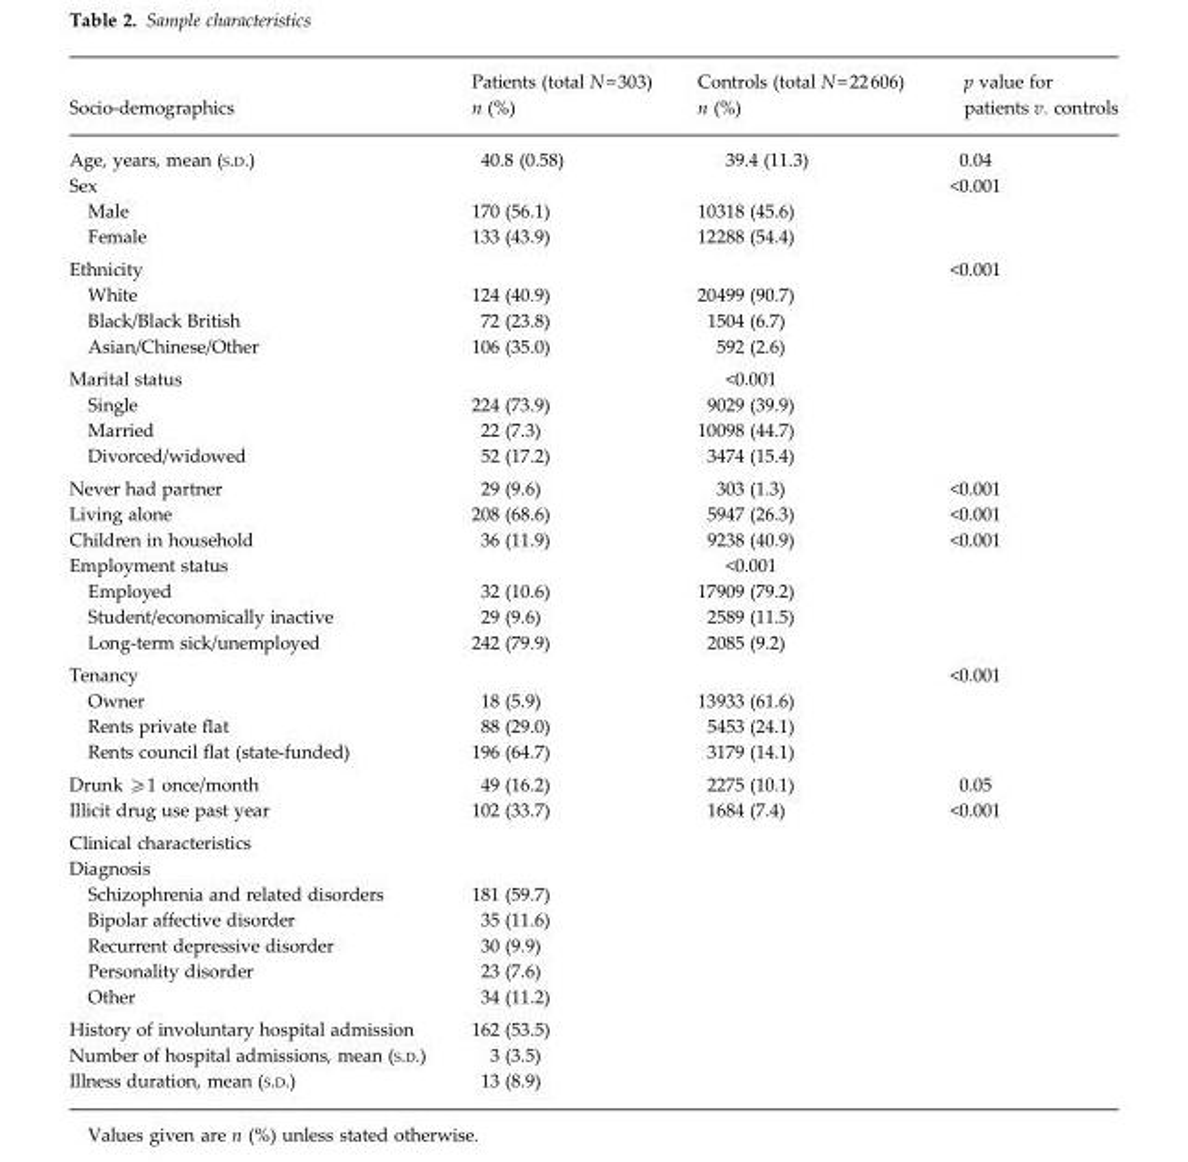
<table><thead><tr><td>Socio-demographics</td><td>Patients (total N=303) n (%)</td><td>Controls (total N=22606) n (%)</td><td>p value for patients v. controls</td></tr></thead><tbody><tr><td>Age, years, mean (S.D.)</td><td>40.8 (0.58)</td><td>39.4 (11.3)</td><td>0.04</td></tr><tr><td>Sex</td><td></td><td></td><td>&lt;0.001</td></tr><tr><td>Male</td><td>170 (56.1)</td><td>10318 (45.6)</td><td></td></tr><tr><td>Female</td><td>133 (43.9)</td><td>12288 (54.4)</td><td></td></tr><tr><td>Ethnicity</td><td></td><td></td><td>&lt;0.001</td></tr><tr><td>White</td><td>124 (40.9)</td><td>20499 (90.7)</td><td></td></tr><tr><td>Black/Black British</td><td>72 (23.8)</td><td>1504 (6.7)</td><td></td></tr><tr><td>Asian/Chinese/Other</td><td>106 (35.0)</td><td>592 (2.6)</td><td></td></tr><tr><td>Marital status</td><td></td><td>&lt;0.001</td><td></td></tr><tr><td>Single</td><td>224 (73.9)</td><td>9029 (39.9)</td><td></td></tr><tr><td>Married</td><td>22 (7.3)</td><td>10098 (44.7)</td><td></td></tr><tr><td>Divorced/widowed</td><td>52 (17.2)</td><td>3474 (15.4)</td><td></td></tr><tr><td>Never had partner</td><td>29 (9.6)</td><td>303 (1.3)</td><td>&lt;0.001</td></tr><tr><td>Living alone</td><td>208 (68.6)</td><td>5947 (26.3)</td><td>&lt;0.001</td></tr><tr><td>Children in household</td><td>36 (11.9)</td><td>9238 (40.9)</td><td>&lt;0.001</td></tr><tr><td>Employment status</td><td></td><td>&lt;0.001</td><td></td></tr><tr><td>Employed</td><td>32 (10.6)</td><td>17909 (79.2)</td><td></td></tr><tr><td>Student/economically inactive</td><td>29 (9.6)</td><td>2589 (11.5)</td><td></td></tr><tr><td>Long-term sick/unemployed</td><td>242 (79.9)</td><td>2085 (9.2)</td><td></td></tr><tr><td>Tenancy</td><td></td><td></td><td>&lt;0.001</td></tr><tr><td>Owner</td><td>18 (5.9)</td><td>13933 (61.6)</td><td></td></tr><tr><td>Rents private flat</td><td>88 (29.0)</td><td>5453 (24.1)</td><td></td></tr><tr><td>Rents council flat (state-funded)</td><td>196 (64.7)</td><td>3179 (14.1)</td><td></td></tr><tr><td>Drunk ⩾1 once/month</td><td>49 (16.2)</td><td>2275 (10.1)</td><td>0.05</td></tr><tr><td>Illicit drug use past year</td><td>102 (33.7)</td><td>1684 (7.4)</td><td>&lt;0.001</td></tr><tr><td colspan="4">Clinical characteristics</td></tr><tr><td colspan="4">Diagnosis</td></tr><tr><td>Schizophrenia and related disorders</td><td>181 (59.7)</td><td></td><td></td></tr><tr><td>Bipolar affective disorder</td><td>35 (11.6)</td><td></td><td></td></tr><tr><td>Recurrent depressive disorder</td><td>30 (9.9)</td><td></td><td></td></tr><tr><td>Personality disorder</td><td>23 (7.6)</td><td></td><td></td></tr><tr><td>Other</td><td>34 (11.2)</td><td></td><td></td></tr><tr><td>History of involuntary hospital admission</td><td>162 (53.5)</td><td></td><td></td></tr><tr><td>Number of hospital admissions, mean (S.D.)</td><td>3 (3.5)</td><td></td><td></td></tr><tr><td>Illness duration, mean (S.D.)</td><td>13 (8.9)</td><td></td><td></td></tr></tbody></table>